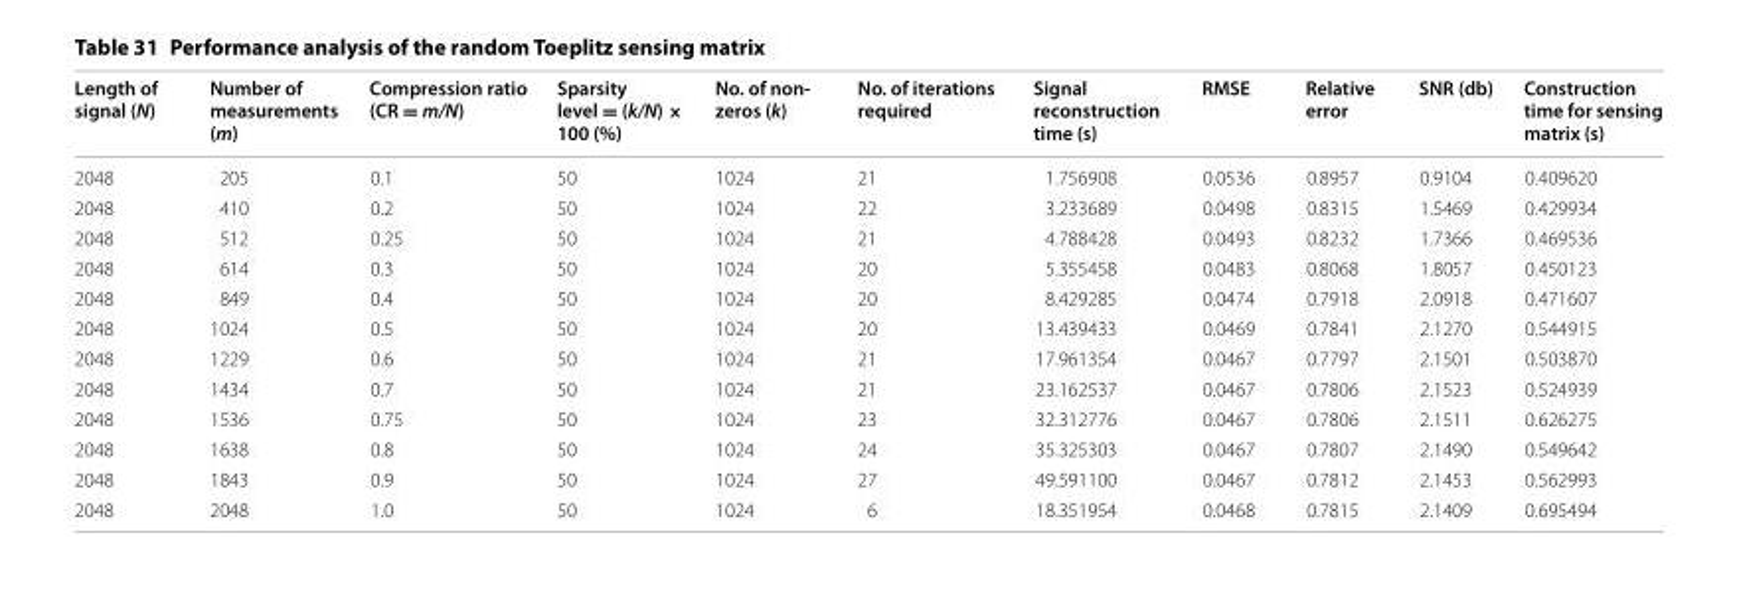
<table><thead><tr><td>Length of signal (N)</td><td>Number of measurements (m)</td><td>Compression ratio (CR = m/N)</td><td>Sparsity level = (k/N) × 100 (%)</td><td>No. of non‑ zeros (k)</td><td>No. of iterations required</td><td>Signal reconstruction time (s)</td><td>RMSE</td><td>Relative error</td><td>SNR (db)</td><td>Construction time for sensing matrix (s)</td></tr></thead><tbody><tr><td>2048</td><td>205</td><td>0.1</td><td>50</td><td>1024</td><td>21</td><td>1.756908</td><td>0.0536</td><td>0.8957</td><td>0.9104</td><td>0.409620</td></tr><tr><td>2048</td><td>410</td><td>0.2</td><td>50</td><td>1024</td><td>22</td><td>3.233689</td><td>0.0498</td><td>0.8315</td><td>1.5469</td><td>0.429934</td></tr><tr><td>2048</td><td>512</td><td>0.25</td><td>50</td><td>1024</td><td>21</td><td>4.788428</td><td>0.0493</td><td>0.8232</td><td>1.7366</td><td>0.469536</td></tr><tr><td>2048</td><td>614</td><td>0.3</td><td>50</td><td>1024</td><td>20</td><td>5.355458</td><td>0.0483</td><td>0.8068</td><td>1.8057</td><td>0.450123</td></tr><tr><td>2048</td><td>849</td><td>0.4</td><td>50</td><td>1024</td><td>20</td><td>8.429285</td><td>0.0474</td><td>0.7918</td><td>2.0918</td><td>0.471607</td></tr><tr><td>2048</td><td>1024</td><td>0.5</td><td>50</td><td>1024</td><td>20</td><td>13.439433</td><td>0.0469</td><td>0.7841</td><td>2.1270</td><td>0.544915</td></tr><tr><td>2048</td><td>1229</td><td>0.6</td><td>50</td><td>1024</td><td>21</td><td>17.961354</td><td>0.0467</td><td>0.7797</td><td>2.1501</td><td>0.503870</td></tr><tr><td>2048</td><td>1434</td><td>0.7</td><td>50</td><td>1024</td><td>21</td><td>23.162537</td><td>0.0467</td><td>0.7806</td><td>2.1523</td><td>0.524939</td></tr><tr><td>2048</td><td>1536</td><td>0.75</td><td>50</td><td>1024</td><td>23</td><td>32.312776</td><td>0.0467</td><td>0.7806</td><td>2.1511</td><td>0.626275</td></tr><tr><td>2048</td><td>1638</td><td>0.8</td><td>50</td><td>1024</td><td>24</td><td>35.325303</td><td>0.0467</td><td>0.7807</td><td>2.1490</td><td>0.549642</td></tr><tr><td>2048</td><td>1843</td><td>0.9</td><td>50</td><td>1024</td><td>27</td><td>49.591100</td><td>0.0467</td><td>0.7812</td><td>2.1453</td><td>0.562993</td></tr><tr><td>2048</td><td>2048</td><td>1.0</td><td>50</td><td>1024</td><td>6</td><td>18.351954</td><td>0.0468</td><td>0.7815</td><td>2.1409</td><td>0.695494</td></tr></tbody></table>